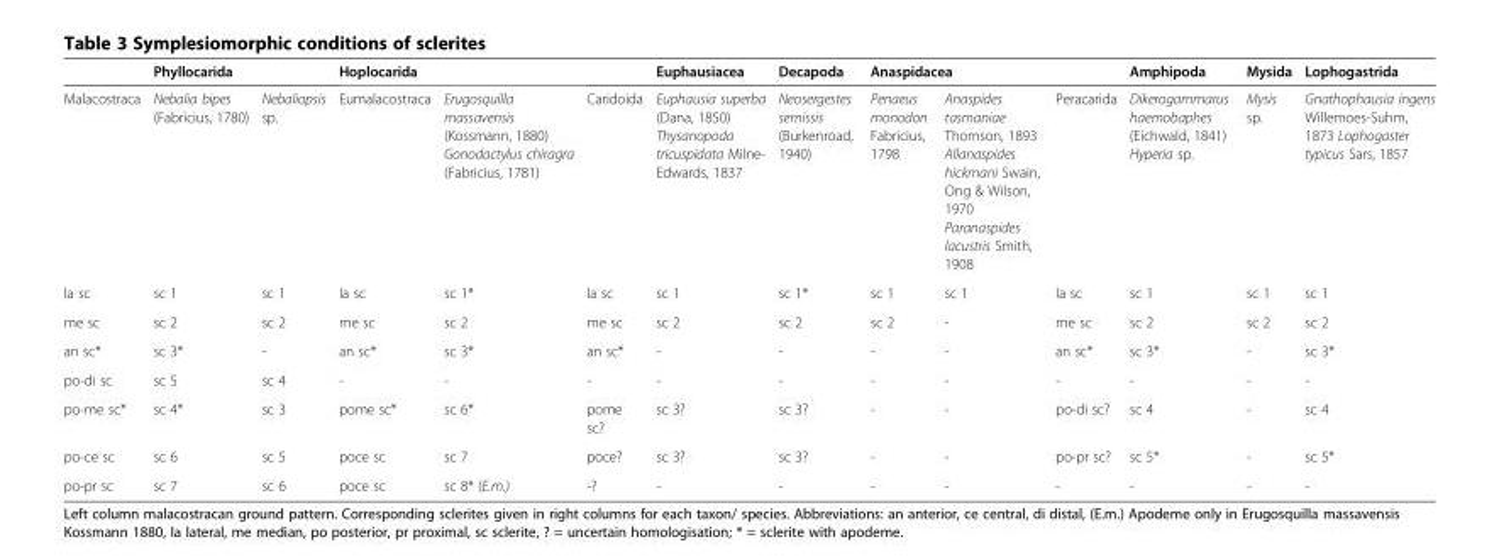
<table><thead><tr><td rowspan="2">Malacostraca</td><td colspan="2">Phyllocarida</td><td colspan="2">Hoplocarida</td><td rowspan="2">Caridoida</td><td rowspan="2">Euphausiacea Euphausia superba (Dana, 1850) Thysanopoda tricuspidata Milne- Edwards, 1837</td><td rowspan="2">Decapoda Neosergestes semissis (Burkenroad, 1940)</td><td colspan="2">Anaspidacea</td><td rowspan="2">Peracarida</td><td rowspan="2">Amphipoda Dikerogammarus haemobaphes (Eichwald, 1841) Hyperia sp.</td><td rowspan="2">Mysida Mysis sp.</td><td rowspan="2">Lophogastrida Gnathophausia ingens Willemoes-Suhm, 1873 Lophogaster typicus Sars, 1857</td></tr><tr><td>Nebalia bipes (Fabricius, 1780)</td><td>Nebaliopsis sp.</td><td>Eumalacostraca</td><td>Erugosquilla massavensis (Kossmann, 1880) Gonodactylus chiragra (Fabricius, 1781)</td><td>Penaeus monodon Fabricius, 1798</td><td>Anaspides tasmaniae Thomson, 1893 Allanaspides hickmani Swain, Ong &amp; Wilson, 1970 Paranaspides lacustris Smith, 1908</td></tr></thead><tbody><tr><td>la sc</td><td>sc 1</td><td>sc 1</td><td>la sc</td><td>sc 1*</td><td>la sc</td><td>sc 1</td><td>sc 1*</td><td>sc 1</td><td>sc 1</td><td>la sc</td><td>sc 1</td><td>sc 1</td><td>sc 1</td></tr><tr><td>me sc</td><td>sc 2</td><td>sc 2</td><td>me sc</td><td>sc 2</td><td>me sc</td><td>sc 2</td><td>sc 2</td><td>sc 2</td><td>-</td><td>me sc</td><td>sc 2</td><td>sc 2</td><td>sc 2</td></tr><tr><td>an sc*</td><td>sc 3*</td><td>-</td><td>an sc*</td><td>sc 3*</td><td>an sc*</td><td>-</td><td>-</td><td>-</td><td>-</td><td>an sc*</td><td>sc 3*</td><td>-</td><td>sc 3*</td></tr><tr><td>po-di sc</td><td>sc 5</td><td>sc 4</td><td>-</td><td>-</td><td>-</td><td>-</td><td>-</td><td>-</td><td>-</td><td>-</td><td>-</td><td>-</td><td>-</td></tr><tr><td>po-me sc*</td><td>sc 4*</td><td>sc 3</td><td>pome sc*</td><td>sc 6*</td><td>pome sc?</td><td>sc 3?</td><td>sc 3?</td><td>-</td><td>-</td><td>po-di sc?</td><td>sc 4</td><td>-</td><td>sc 4</td></tr><tr><td>po-ce sc</td><td>sc 6</td><td>sc 5</td><td>poce sc</td><td>sc 7</td><td>poce?</td><td>sc 3?</td><td>sc 3?</td><td>-</td><td>-</td><td>po-pr sc?</td><td>sc 5*</td><td>-</td><td>sc 5*</td></tr><tr><td>po-pr sc</td><td>sc 7</td><td>sc 6</td><td>poce sc</td><td>sc 8* (E.m.)</td><td>-?</td><td>-</td><td>-</td><td>-</td><td>-</td><td>-</td><td>-</td><td>-</td><td>-</td></tr></tbody></table>